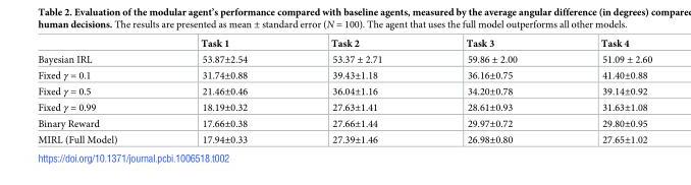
<table><thead><tr><td></td><td>Task 1</td><td>Task 2</td><td>Task 3</td><td>Task 4</td></tr></thead><tbody><tr><td>Bayesian IRL</td><td>53.87±2.54</td><td>53.37 ± 2.71</td><td>59.86 ± 2.00</td><td>51.09 ± 2.60</td></tr><tr><td>Fixed γ = 0.1</td><td>31.74±0.88</td><td>39.43±1.18</td><td>36.16±0.75</td><td>41.40±0.88</td></tr><tr><td>Fixed γ = 0.5</td><td>21.46±0.46</td><td>36.04±1.16</td><td>34.20±0.78</td><td>39.14±0.92</td></tr><tr><td>Fixed γ = 0.99</td><td>18.19±0.32</td><td>27.63±1.41</td><td>28.61±0.93</td><td>31.63±1.08</td></tr><tr><td>Binary Reward</td><td>17.66±0.38</td><td>27.66±1.44</td><td>29.97±0.72</td><td>29.80±0.95</td></tr><tr><td>MIRL (Full Model)</td><td>17.94±0.33</td><td>27.39±1.46</td><td>26.98±0.80</td><td>27.65±1.02</td></tr></tbody></table>